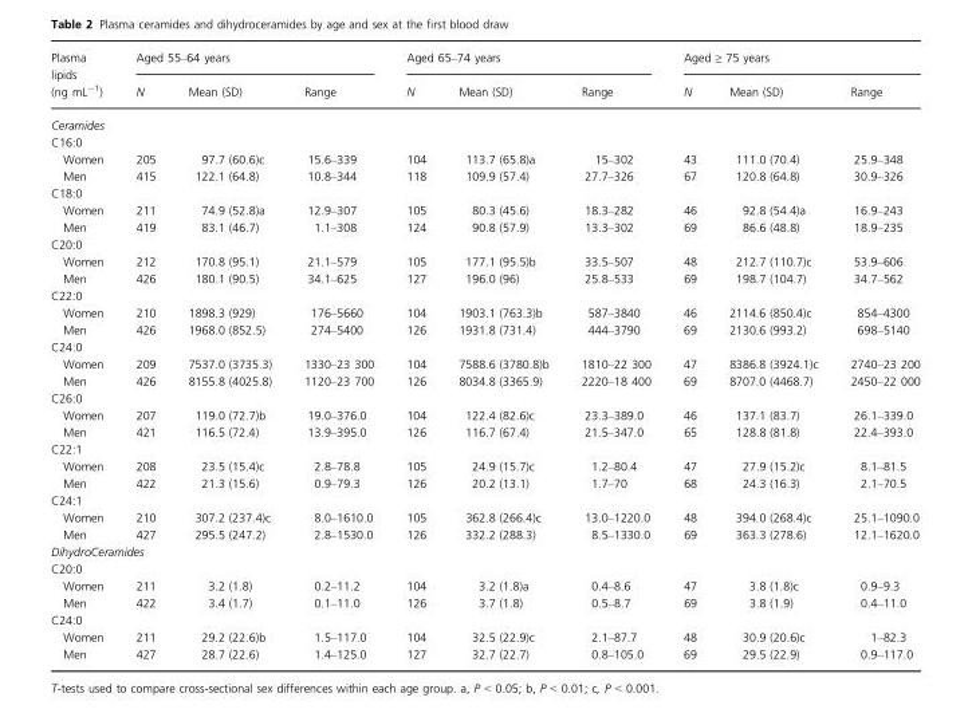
<table><thead><tr><td rowspan="2">Plasma lipids (ng mL<sup>−1</sup>)</td><td colspan="3">Aged 55–64 years</td><td colspan="3">Aged 65–74 years</td><td colspan="3">Aged ≥ 75 years</td></tr><tr><td>N</td><td>Mean (SD)</td><td>Range</td><td>N</td><td>Mean (SD)</td><td>Range</td><td>N</td><td>Mean (SD)</td><td>Range</td></tr></thead><tbody><tr><td colspan="10">Ceramides</td></tr><tr><td colspan="10">C16:0</td></tr><tr><td>Women</td><td>205</td><td>97.7 (60.6)c</td><td>15.6–339</td><td>104</td><td>113.7 (65.8)a</td><td>15–302</td><td>43</td><td>111.0 (70.4)</td><td>25.9–348</td></tr><tr><td>Men</td><td>415</td><td>122.1 (64.8)</td><td>10.8–344</td><td>118</td><td>109.9 (57.4)</td><td>27.7–326</td><td>67</td><td>120.8 (64.8)</td><td>30.9–326</td></tr><tr><td colspan="10">C18:0</td></tr><tr><td>Women</td><td>211</td><td>74.9 (52.8)a</td><td>12.9–307</td><td>105</td><td>80.3 (45.6)</td><td>18.3–282</td><td>46</td><td>92.8 (54.4)a</td><td>16.9–243</td></tr><tr><td>Men</td><td>419</td><td>83.1 (46.7)</td><td>1.1–308</td><td>124</td><td>90.8 (57.9)</td><td>13.3–302</td><td>69</td><td>86.6 (48.8)</td><td>18.9–235</td></tr><tr><td colspan="10">C20:0</td></tr><tr><td>Women</td><td>212</td><td>170.8 (95.1)</td><td>21.1–579</td><td>105</td><td>177.1 (95.5)b</td><td>33.5–507</td><td>48</td><td>212.7 (110.7)c</td><td>53.9–606</td></tr><tr><td>Men</td><td>426</td><td>180.1 (90.5)</td><td>34.1–625</td><td>127</td><td>196.0 (96)</td><td>25.8–533</td><td>69</td><td>198.7 (104.7)</td><td>34.7–562</td></tr><tr><td colspan="10">C22:0</td></tr><tr><td>Women</td><td>210</td><td>1898.3 (929)</td><td>176–5660</td><td>104</td><td>1903.1 (763.3)b</td><td>587–3840</td><td>46</td><td>2114.6 (850.4)c</td><td>854–4300</td></tr><tr><td>Men</td><td>426</td><td>1968.0 (852.5)</td><td>274–5400</td><td>126</td><td>1931.8 (731.4)</td><td>444–3790</td><td>69</td><td>2130.6 (993.2)</td><td>698–5140</td></tr><tr><td colspan="10">C24:0</td></tr><tr><td>Women</td><td>209</td><td>7537.0 (3735.3)</td><td>1330–23 300</td><td>104</td><td>7588.6 (3780.8)b</td><td>1810–22 300</td><td>47</td><td>8386.8 (3924.1)c</td><td>2740–23 200</td></tr><tr><td>Men</td><td>426</td><td>8155.8 (4025.8)</td><td>1120–23 700</td><td>126</td><td>8034.8 (3365.9)</td><td>2220–18 400</td><td>69</td><td>8707.0 (4468.7)</td><td>2450–22 000</td></tr><tr><td colspan="10">C26:0</td></tr><tr><td>Women</td><td>207</td><td>119.0 (72.7)b</td><td>19.0–376.0</td><td>104</td><td>122.4 (82.6)c</td><td>23.3–389.0</td><td>46</td><td>137.1 (83.7)</td><td>26.1–339.0</td></tr><tr><td>Men</td><td>421</td><td>116.5 (72.4)</td><td>13.9–395.0</td><td>126</td><td>116.7 (67.4)</td><td>21.5–347.0</td><td>65</td><td>128.8 (81.8)</td><td>22.4–393.0</td></tr><tr><td colspan="10">C22:1</td></tr><tr><td>Women</td><td>208</td><td>23.5 (15.4)c</td><td>2.8–78.8</td><td>105</td><td>24.9 (15.7)c</td><td>1.2–80.4</td><td>47</td><td>27.9 (15.2)c</td><td>8.1–81.5</td></tr><tr><td>Men</td><td>422</td><td>21.3 (15.6)</td><td>0.9–79.3</td><td>126</td><td>20.2 (13.1)</td><td>1.7–70</td><td>68</td><td>24.3 (16.3)</td><td>2.1–70.5</td></tr><tr><td colspan="10">C24:1</td></tr><tr><td>Women</td><td>210</td><td>307.2 (237.4)c</td><td>8.0–1610.0</td><td>105</td><td>362.8 (266.4)c</td><td>13.0–1220.0</td><td>48</td><td>394.0 (268.4)c</td><td>25.1–1090.0</td></tr><tr><td>Men</td><td>427</td><td>295.5 (247.2)</td><td>2.8–1530.0</td><td>126</td><td>332.2 (288.3)</td><td>8.5–1330.0</td><td>69</td><td>363.3 (278.6)</td><td>12.1–1620.0</td></tr><tr><td colspan="10">DihydroCeramides</td></tr><tr><td colspan="10">C20:0</td></tr><tr><td>Women</td><td>211</td><td>3.2 (1.8)</td><td>0.2–11.2</td><td>104</td><td>3.2 (1.8)a</td><td>0.4–8.6</td><td>47</td><td>3.8 (1.8)c</td><td>0.9–9.3</td></tr><tr><td>Men</td><td>422</td><td>3.4 (1.7)</td><td>0.1–11.0</td><td>126</td><td>3.7 (1.8)</td><td>0.5–8.7</td><td>69</td><td>3.8 (1.9)</td><td>0.4–11.0</td></tr><tr><td colspan="10">C24:0</td></tr><tr><td>Women</td><td>211</td><td>29.2 (22.6)b</td><td>1.5–117.0</td><td>104</td><td>32.5 (22.9)c</td><td>2.1–87.7</td><td>48</td><td>30.9 (20.6)c</td><td>1–82.3</td></tr><tr><td>Men</td><td>427</td><td>28.7 (22.6)</td><td>1.4–125.0</td><td>127</td><td>32.7 (22.7)</td><td>0.8–105.0</td><td>69</td><td>29.5 (22.9)</td><td>0.9–117.0</td></tr></tbody></table>